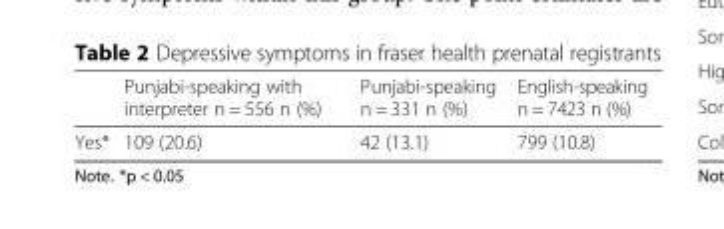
<table><thead><tr><td></td><td>Punjabi-speaking with interpreter n = 556 n (%)</td><td>Punjabi-speaking n = 331 n (%)</td><td>English-speaking n = 7423 n (%)</td></tr></thead><tbody><tr><td>Yes*</td><td>109 (20.6)</td><td>42 (13.1)</td><td>799 (10.8)</td></tr></tbody></table>